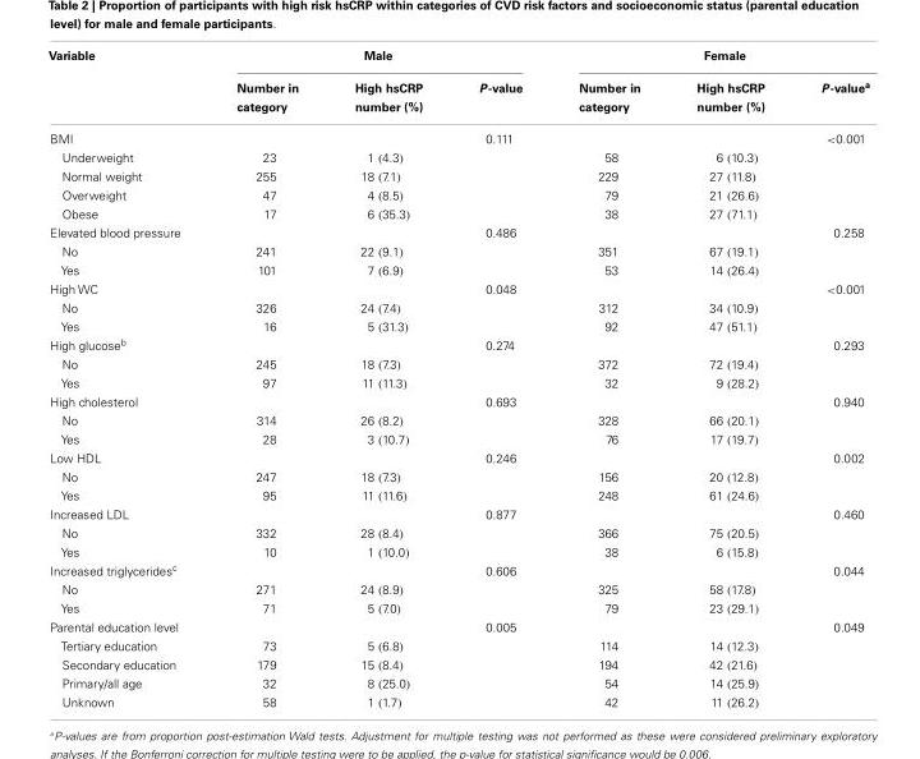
<table><thead><tr><td rowspan="2">Variable</td><td colspan="3">Male</td><td colspan="3">Female</td></tr><tr><td>Number in category</td><td>High hsCRP number (%)</td><td>P-value</td><td>Number in category</td><td>High hsCRP number (%)</td><td>P-value<sup>a</sup></td></tr></thead><tbody><tr><td>BMI</td><td></td><td></td><td>0.111</td><td></td><td></td><td>&lt;0.001</td></tr><tr><td>Underweight</td><td>23</td><td>1 (4.3)</td><td></td><td>58</td><td>6 (10.3)</td><td></td></tr><tr><td>Normal weight</td><td>255</td><td>18 (7.1)</td><td></td><td>229</td><td>27 (11.8)</td><td></td></tr><tr><td>Overweight</td><td>47</td><td>4 (8.5)</td><td></td><td>79</td><td>21 (26.6)</td><td></td></tr><tr><td>Obese</td><td>17</td><td>6 (35.3)</td><td></td><td>38</td><td>27 (71.1)</td><td></td></tr><tr><td>Elevated blood pressure</td><td></td><td></td><td>0.486</td><td></td><td></td><td>0.258</td></tr><tr><td>No</td><td>241</td><td>22 (9.1)</td><td></td><td>351</td><td>67 (19.1)</td><td></td></tr><tr><td>Yes</td><td>101</td><td>7 (6.9)</td><td></td><td>53</td><td>14 (26.4)</td><td></td></tr><tr><td>High WC</td><td></td><td></td><td>0.048</td><td></td><td></td><td>&lt;0.001</td></tr><tr><td>No</td><td>326</td><td>24 (7.4)</td><td></td><td>312</td><td>34 (10.9)</td><td></td></tr><tr><td>Yes</td><td>16</td><td>5 (31.3)</td><td></td><td>92</td><td>47 (51.1)</td><td></td></tr><tr><td>High glucose<sup>b</sup></td><td></td><td></td><td>0.274</td><td></td><td></td><td>0.293</td></tr><tr><td>No</td><td>245</td><td>18 (7.3)</td><td></td><td>372</td><td>72 (19.4)</td><td></td></tr><tr><td>Yes</td><td>97</td><td>11 (11.3)</td><td></td><td>32</td><td>9 (28.2)</td><td></td></tr><tr><td>High cholesterol</td><td></td><td></td><td>0.693</td><td></td><td></td><td>0.940</td></tr><tr><td>No</td><td>314</td><td>26 (8.2)</td><td></td><td>328</td><td>66 (20.1)</td><td></td></tr><tr><td>Yes</td><td>28</td><td>3 (10.7)</td><td></td><td>76</td><td>17 (19.7)</td><td></td></tr><tr><td>Low HDL</td><td></td><td></td><td>0.246</td><td></td><td></td><td>0.002</td></tr><tr><td>No</td><td>247</td><td>18 (7.3)</td><td></td><td>156</td><td>20 (12.8)</td><td></td></tr><tr><td>Yes</td><td>95</td><td>11 (11.6)</td><td></td><td>248</td><td>61 (24.6)</td><td></td></tr><tr><td>Increased LDL</td><td></td><td></td><td>0.877</td><td></td><td></td><td>0.460</td></tr><tr><td>No</td><td>332</td><td>28 (8.4)</td><td></td><td>366</td><td>75 (20.5)</td><td></td></tr><tr><td>Yes</td><td>10</td><td>1 (10.0)</td><td></td><td>38</td><td>6 (15.8)</td><td></td></tr><tr><td>Increased triglycerides<sup>c</sup></td><td></td><td></td><td>0.606</td><td></td><td></td><td>0.044</td></tr><tr><td>No</td><td>271</td><td>24 (8.9)</td><td></td><td>325</td><td>58 (17.8)</td><td></td></tr><tr><td>Yes</td><td>71</td><td>5 (7.0)</td><td></td><td>79</td><td>23 (29.1)</td><td></td></tr><tr><td>Parental education level</td><td></td><td></td><td>0.005</td><td></td><td></td><td>0.049</td></tr><tr><td>Tertiary education</td><td>73</td><td>5 (6.8)</td><td></td><td>114</td><td>14 (12.3)</td><td></td></tr><tr><td>Secondary education</td><td>179</td><td>15 (8.4)</td><td></td><td>194</td><td>42 (21.6)</td><td></td></tr><tr><td>Primary/all age</td><td>32</td><td>8 (25.0)</td><td></td><td>54</td><td>14 (25.9)</td><td></td></tr><tr><td>Unknown</td><td>58</td><td>1 (1.7)</td><td></td><td>42</td><td>11 (26.2)</td><td></td></tr></tbody></table>